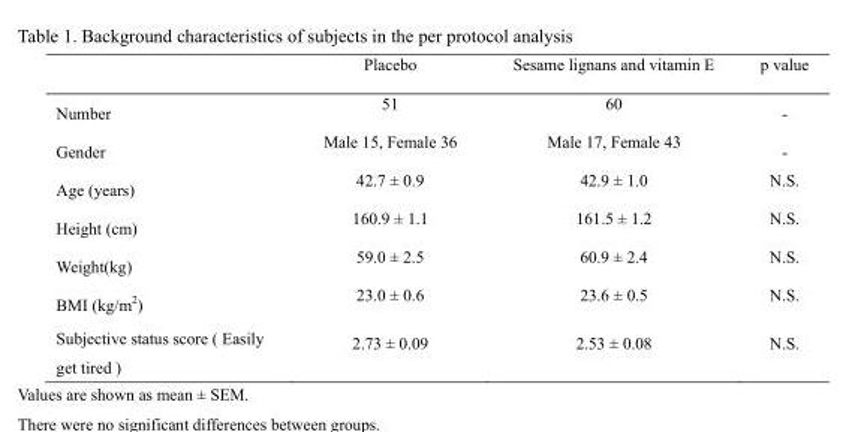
<table><thead><tr><td></td><td>Placebo</td><td>Sesame lignans and vitamin E</td><td>p value</td></tr></thead><tbody><tr><td>Number</td><td>51</td><td>60</td><td>-</td></tr><tr><td>Gender</td><td>Male 15, Female 36</td><td>Male 17, Female 43</td><td>-</td></tr><tr><td>Age (years)</td><td>42.7 ± 0.9</td><td>42.9 ± 1.0</td><td>N.S.</td></tr><tr><td>Height (cm)</td><td>160.9 ± 1.1</td><td>161.5 ± 1.2</td><td>N.S.</td></tr><tr><td>Weight(kg)</td><td>59.0 ± 2.5</td><td>60.9 ± 2.4</td><td>N.S.</td></tr><tr><td>BMI (kg/m<sup>2</sup>)</td><td>23.0 ± 0.6</td><td>23.6 ± 0.5</td><td>N.S.</td></tr><tr><td>Subjective status score ( Easily get tired )</td><td>2.73 ± 0.09</td><td>2.53 ± 0.08</td><td>N.S.</td></tr></tbody></table>